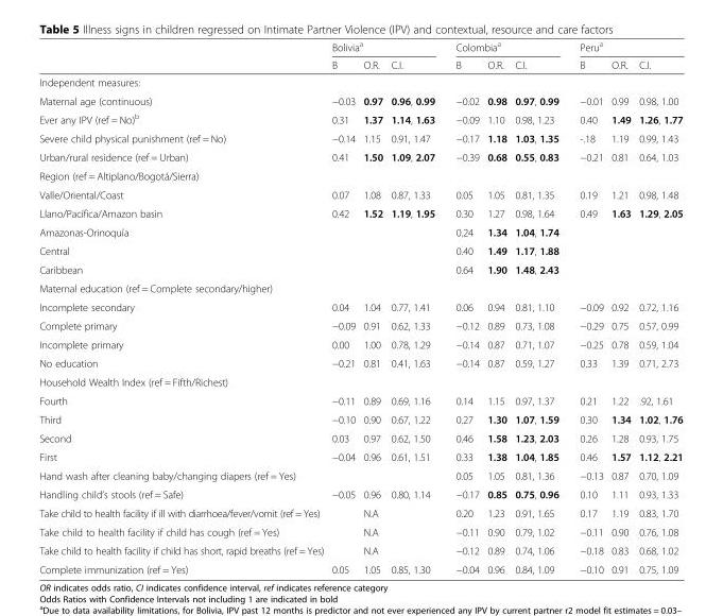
<table><thead><tr><td rowspan="2"></td><td colspan="3">Bolivia<sup>a</sup></td><td colspan="3">Colombia<sup>a</sup></td><td colspan="3">Peru<sup>a</sup></td></tr><tr><td>B</td><td>O.R.</td><td>C.I.</td><td>B</td><td>O.R.</td><td>C.I.</td><td>B</td><td>O.R.</td><td>C.I.</td></tr></thead><tbody><tr><td colspan="10">Independent measures:</td></tr><tr><td>Maternal age (continuous)</td><td>−0.03</td><td>0.97</td><td>0.96, 0.99</td><td>−0.02</td><td>0.98</td><td>0.97, 0.99</td><td>−0.01</td><td>0.99</td><td>0.98, 1.00</td></tr><tr><td>Ever any IPV (ref = No)<sup>b</sup></td><td>0.31</td><td>1.37</td><td>1.14, 1.63</td><td>−0.09</td><td>1.10</td><td>0.98, 1.23</td><td>0.40</td><td>1.49</td><td>1.26, 1.77</td></tr><tr><td>Severe child physical punishment (ref = No)</td><td>−0.14</td><td>1.15</td><td>0.91, 1.47</td><td>−0.17</td><td>1.18</td><td>1.03, 1.35</td><td>-.18</td><td>1.19</td><td>0.99, 1.43</td></tr><tr><td>Urban/rural residence (ref = Urban)</td><td>0.41</td><td>1.50</td><td>1.09, 2.07</td><td>−0.39</td><td>0.68</td><td>0.55, 0.83</td><td>−0.21</td><td>0.81</td><td>0.64, 1.03</td></tr><tr><td colspan="10">Region (ref = Altiplano/Bogotá/Sierra)</td></tr><tr><td>Valle/Oriental/Coast</td><td>0.07</td><td>1.08</td><td>0.87, 1.33</td><td>0.05</td><td>1.05</td><td>0.81, 1.35</td><td>0.19</td><td>1.21</td><td>0.98, 1.48</td></tr><tr><td>Llano/Pacífica/Amazon basin</td><td>0.42</td><td>1.52</td><td>1.19, 1.95</td><td>0.30</td><td>1.27</td><td>0.98, 1.64</td><td>0.49</td><td>1.63</td><td>1.29, 2.05</td></tr><tr><td>Amazonas-Orinoquía</td><td></td><td></td><td></td><td>0.24</td><td>1.34</td><td>1.04, 1.74</td><td></td><td></td><td></td></tr><tr><td>Central</td><td></td><td></td><td></td><td>0.40</td><td>1.49</td><td>1.17, 1.88</td><td></td><td></td><td></td></tr><tr><td>Caribbean</td><td></td><td></td><td></td><td>0.64</td><td>1.90</td><td>1.48, 2.43</td><td></td><td></td><td></td></tr><tr><td colspan="10">Maternal education (ref = Complete secondary/higher)</td></tr><tr><td>Incomplete secondary</td><td>0.04</td><td>1.04</td><td>0.77, 1.41</td><td>0.06</td><td>0.94</td><td>0.81, 1.10</td><td>−0.09</td><td>0.92</td><td>0.72, 1.16</td></tr><tr><td>Complete primary</td><td>−0.09</td><td>0.91</td><td>0.62, 1.33</td><td>−0.12</td><td>0.89</td><td>0.73, 1.08</td><td>−0.29</td><td>0.75</td><td>0.57, 0.99</td></tr><tr><td>Incomplete primary</td><td>0.00</td><td>1.00</td><td>0.78, 1.29</td><td>−0.14</td><td>0.87</td><td>0.71, 1.07</td><td>−0.25</td><td>0.78</td><td>0.59, 1.04</td></tr><tr><td>No education</td><td>−0.21</td><td>0.81</td><td>0.41, 1.63</td><td>−0.14</td><td>0.87</td><td>0.59, 1.27</td><td>0.33</td><td>1.39</td><td>0.71, 2.73</td></tr><tr><td colspan="10">Household Wealth Index (ref = Fifth/Richest)</td></tr><tr><td>Fourth</td><td>−0.11</td><td>0.89</td><td>0.69, 1.16</td><td>0.14</td><td>1.15</td><td>0.97, 1.37</td><td>0.21</td><td>1.22</td><td>.92, 1.61</td></tr><tr><td>Third</td><td>−0.10</td><td>0.90</td><td>0.67, 1.22</td><td>0.27</td><td>1.30</td><td>1.07, 1.59</td><td>0.30</td><td>1.34</td><td>1.02, 1.76</td></tr><tr><td>Second</td><td>0.03</td><td>0.97</td><td>0.62, 1.50</td><td>0.46</td><td>1.58</td><td>1.23, 2.03</td><td>0.26</td><td>1.28</td><td>0.93, 1.75</td></tr><tr><td>First</td><td>−0.04</td><td>0.96</td><td>0.61, 1.51</td><td>0.33</td><td>1.38</td><td>1.04, 1.85</td><td>0.46</td><td>1.57</td><td>1.12, 2.21</td></tr><tr><td>Hand wash after cleaning baby/changing diapers (ref = Yes)</td><td></td><td></td><td></td><td>0.05</td><td>1.05</td><td>0.81, 1.36</td><td>−0.13</td><td>0.87</td><td>0.70, 1.09</td></tr><tr><td>Handling child’s stools (ref = Safe)</td><td>−0.05</td><td>0.96</td><td>0.80, 1.14</td><td>−0.17</td><td>0.85</td><td>0.75, 0.96</td><td>0.10</td><td>1.11</td><td>0.93, 1.33</td></tr><tr><td>Take child to health facility if ill with diarrhoea/fever/vomit (ref = Yes)</td><td></td><td>N.A</td><td></td><td>0.20</td><td>1.23</td><td>0.91, 1.65</td><td>0.17</td><td>1.19</td><td>0.83, 1.70</td></tr><tr><td>Take child to health facility if child has cough (ref = Yes)</td><td></td><td>N.A</td><td></td><td>−0.11</td><td>0.90</td><td>0.79, 1.02</td><td>−0.11</td><td>0.90</td><td>0.76, 1.08</td></tr><tr><td>Take child to health facility if child has short, rapid breaths (ref = Yes)</td><td></td><td>N.A</td><td></td><td>−0.12</td><td>0.89</td><td>0.74, 1.06</td><td>−0.18</td><td>0.83</td><td>0.68, 1.02</td></tr><tr><td>Complete immunization (ref = Yes)</td><td>0.05</td><td>1.05</td><td>0.85, 1.30</td><td>−0.04</td><td>0.96</td><td>0.84, 1.09</td><td>−0.10</td><td>0.91</td><td>0.75, 1.09</td></tr></tbody></table>